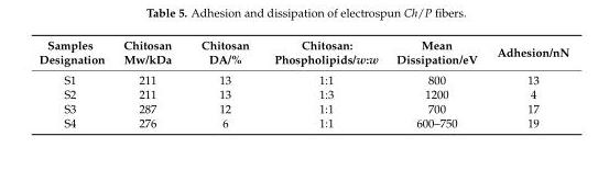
<table><thead><tr><td>Samples Designation</td><td>Chitosan Mw/kDa</td><td>Chitosan DA/%</td><td>Chitosan: Phospholipids/w:w</td><td>Mean Dissipation/eV</td><td>Adhesion/nN</td></tr></thead><tbody><tr><td>S1</td><td>211</td><td>13</td><td>1:1</td><td>800</td><td>13</td></tr><tr><td>S2</td><td>211</td><td>13</td><td>1:3</td><td>1200</td><td>4</td></tr><tr><td>S3</td><td>287</td><td>12</td><td>1:1</td><td>700</td><td>17</td></tr><tr><td>S4</td><td>276</td><td>6</td><td>1:1</td><td>600–750</td><td>19</td></tr></tbody></table>